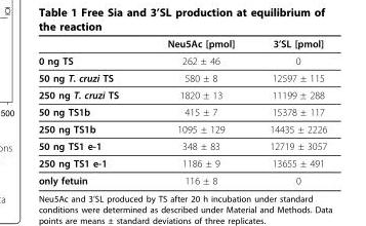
<table><thead><tr><td></td><td>Neu5Ac [pmol]</td><td>3’SL [pmol]</td></tr></thead><tbody><tr><td>0 ng TS</td><td>262 ± 46</td><td>0</td></tr><tr><td>50 ng T. cruzi TS</td><td>580 ± 8</td><td>12597 ± 115</td></tr><tr><td>250 ng T. cruzi TS</td><td>1820 ± 13</td><td>11199 ± 288</td></tr><tr><td>50 ng TS1b</td><td>415 ± 7</td><td>15378 ± 117</td></tr><tr><td>250 ng TS1b</td><td>1095 ± 129</td><td>14435 ± 2226</td></tr><tr><td>50 ng TS1 e-1</td><td>348 ± 83</td><td>12719 ± 3057</td></tr><tr><td>250 ng TS1 e-1</td><td>1186 ± 9</td><td>13655 ± 491</td></tr><tr><td>only fetuin</td><td>116 ± 8</td><td>0</td></tr></tbody></table>